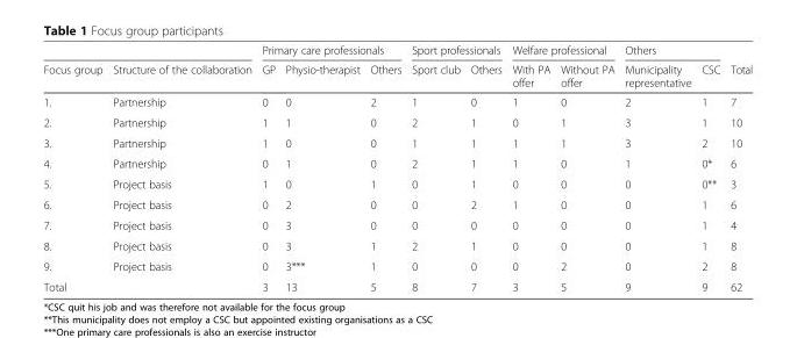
<table><thead><tr><td rowspan="2">Focus group</td><td rowspan="2">Structure of the collaboration</td><td colspan="3">Primary care professionals</td><td colspan="2">Sport professionals</td><td colspan="2">Welfare professional</td><td colspan="2">Others</td><td rowspan="2">Total</td></tr><tr><td>GP</td><td>Physio-therapist</td><td>Others</td><td>Sport club</td><td>Others</td><td>With PA offer</td><td>Without PA offer</td><td>Municipality representative</td><td>CSC</td></tr></thead><tbody><tr><td>1.</td><td>Partnership</td><td>0</td><td>0</td><td>2</td><td>1</td><td>0</td><td>1</td><td>0</td><td>2</td><td>1</td><td>7</td></tr><tr><td>2.</td><td>Partnership</td><td>1</td><td>1</td><td>0</td><td>2</td><td>1</td><td>0</td><td>1</td><td>3</td><td>1</td><td>10</td></tr><tr><td>3.</td><td>Partnership</td><td>1</td><td>0</td><td>0</td><td>1</td><td>1</td><td>1</td><td>1</td><td>3</td><td>2</td><td>10</td></tr><tr><td>4.</td><td>Partnership</td><td>0</td><td>1</td><td>0</td><td>2</td><td>1</td><td>1</td><td>0</td><td>1</td><td>0*</td><td>6</td></tr><tr><td>5.</td><td>Project basis</td><td>1</td><td>0</td><td>1</td><td>0</td><td>1</td><td>0</td><td>0</td><td>0</td><td>0**</td><td>3</td></tr><tr><td>6.</td><td>Project basis</td><td>0</td><td>2</td><td>0</td><td>0</td><td>2</td><td>1</td><td>0</td><td>0</td><td>1</td><td>6</td></tr><tr><td>7.</td><td>Project basis</td><td>0</td><td>3</td><td>0</td><td>0</td><td>0</td><td>0</td><td>0</td><td>0</td><td>1</td><td>4</td></tr><tr><td>8.</td><td>Project basis</td><td>0</td><td>3</td><td>1</td><td>2</td><td>1</td><td>0</td><td>0</td><td>0</td><td>1</td><td>8</td></tr><tr><td>9.</td><td>Project basis</td><td>0</td><td>3***</td><td>1</td><td>0</td><td>0</td><td>0</td><td>2</td><td>0</td><td>2</td><td>8</td></tr><tr><td>Total</td><td></td><td>3</td><td>13</td><td>5</td><td>8</td><td>7</td><td>3</td><td>5</td><td>9</td><td>9</td><td>62</td></tr></tbody></table>